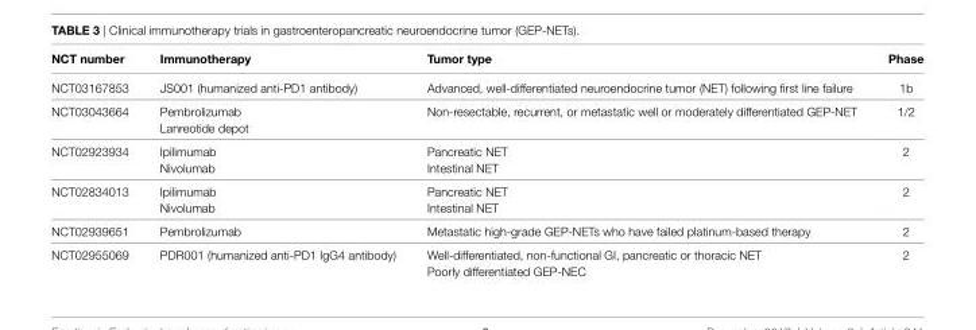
<table><thead><tr><td>NCT number</td><td>immunotherapy</td><td>Tumor type</td><td>Phase</td></tr></thead><tbody><tr><td>NCT03167853</td><td>JS001 (humanized anti-PD1 antibody)</td><td>Advanced, well-differentiated neuroendocrine tumor (NET) following first line failure</td><td>1b</td></tr><tr><td rowspan="2">NCT03043664</td><td>Pembrolizumab</td><td rowspan="2">Non-resectable, recurrent, or metastatic well or moderately differentiated GEP-NET</td><td rowspan="2">1/2</td></tr><tr><td>Lanreotide depot</td></tr><tr><td rowspan="2">NCT02923934</td><td>Ipilimumab</td><td>Pancreatic NET</td><td rowspan="2">2</td></tr><tr><td>Nivolumab</td><td>Intestinal NET</td></tr><tr><td rowspan="2">NCT02834013</td><td>Ipilimumab</td><td>Pancreatic NET</td><td rowspan="2">2</td></tr><tr><td>Nivolumab</td><td>Intestinal NET</td></tr><tr><td>NCT02939651</td><td>Pembrolizumab</td><td>Metastatic high-grade GEP-NETs who have failed platinum-based therapy</td><td>2</td></tr><tr><td rowspan="2">NCT02955069</td><td rowspan="2">PDR001 (humanized anti-PD1 IgG4 antibody)</td><td>Well-differentiated, non-functional GI, pancreatic or thoracic NET</td><td rowspan="2">2</td></tr><tr><td>Poorly differentiated GEP-NEC</td></tr></tbody></table>